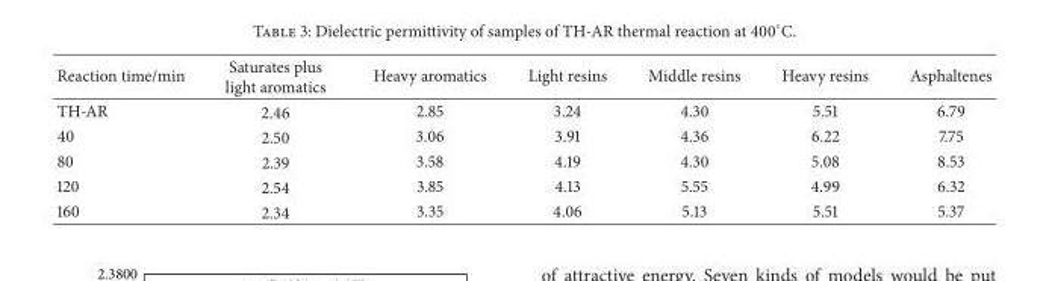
<table><thead><tr><td>Reaction time/min</td><td>Saturates plus light aromatics</td><td>Heavy aromatics</td><td>Light resins</td><td>Middle resins</td><td>Heavy resins</td><td>Asphaltenes</td></tr></thead><tbody><tr><td>TH-AR</td><td>2.46</td><td>2.85</td><td>3.24</td><td>4.30</td><td>5.51</td><td>6.79</td></tr><tr><td>40</td><td>2.50</td><td>3.06</td><td>3.91</td><td>4.36</td><td>6.22</td><td>7.75</td></tr><tr><td>80</td><td>2.39</td><td>3.58</td><td>4.19</td><td>4.30</td><td>5.08</td><td>8.53</td></tr><tr><td>120</td><td>2.54</td><td>3.85</td><td>4.13</td><td>5.55</td><td>4.99</td><td>6.32</td></tr><tr><td>160</td><td>2.34</td><td>3.35</td><td>4.06</td><td>5.13</td><td>5.51</td><td>5.37</td></tr></tbody></table>